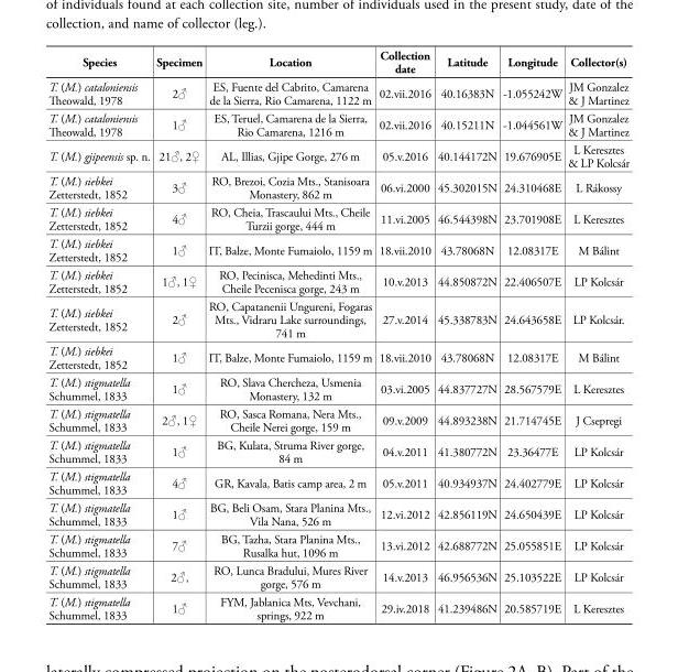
<table><thead><tr><td>Species</td><td>Specimen</td><td>Location</td><td>Collection date</td><td>Latitude</td><td>Longitude</td><td>Collector(s)</td></tr></thead><tbody><tr><td>T. (M.) cataloniensis Theowald, 1978</td><td>2♂</td><td>ES, Fuente del Cabrito, Camarena de la Sierra, Rio Camarena, 1122 m</td><td>02.vii.2016</td><td colspan="2">40.16383N -1.055242W</td><td>JM Gonzalez &amp; J Martinez</td></tr><tr><td>T. (M.) cataloniensis Theowald, 1978</td><td>1♂</td><td>ES, Teruel, Camarena de la Sierra, Rio Camarena, 1216 m</td><td>02.vii.2016</td><td colspan="2">40.15211N -1.044561W</td><td>JM Gonzalez &amp; J Martinez</td></tr><tr><td>T. (M.) gjipeensis sp. n.</td><td>21♂, 2♀</td><td>AL, Illias, Gjipe Gorge, 276 m</td><td>05.v.2016</td><td colspan="2">40.144172N 19.676905E</td><td>L Keresztes &amp; LP Kolcsár</td></tr><tr><td>T. (M.) siebkei Zetterstedt, 1852</td><td>3♂</td><td>RO, Brezoi, Cozia Mts., Stanisoara Monastery, 862 m</td><td>06.vi.2000</td><td colspan="2">45.302015N 24.310468E</td><td>L Rákossy</td></tr><tr><td>T. (M.) siebkei Zetterstedt, 1852</td><td>4♂</td><td>RO, Cheia, Trascaului Mts., Cheile Turzii gorge, 444 m</td><td>11.vi.2005</td><td colspan="2">46.544398N 23.701908E</td><td>L Keresztes</td></tr><tr><td>T. (M.) siebkei Zetterstedt, 1852</td><td>1♂</td><td>IT, Balze, Monte Fumaiolo, 1159 m</td><td>18.vii.2010</td><td colspan="2">43.78068N 12.08317E</td><td>M Bálint</td></tr><tr><td>T. (M.) siebkei Zetterstedt, 1852</td><td>1♂, 1♀</td><td>RO, Pecinisca, Mehedinti Mts., Cheile Pecenisca gorge, 243 m</td><td>10.v.2013</td><td colspan="2">44.850872N 22.406507E</td><td>LP Kolcsár</td></tr><tr><td>T. (M.) siebkei Zetterstedt, 1852</td><td>2♂</td><td>RO, Capatanenii Ungureni, Fogaras Mts., Vidraru Lake surroundings, 741 m</td><td>27.v.2014</td><td colspan="2">45.338783N 24.643658E</td><td>LP Kolcsár.</td></tr><tr><td>T. (M.) siebkei Zetterstedt, 1852</td><td>1♂</td><td>IT, Balze, Monte Fumaiolo, 1159 m</td><td>18.vii.2010</td><td colspan="2">43.78068N 12.08317E</td><td>M Bálint</td></tr><tr><td>T. (M.) stigmatella Schummel, 1833</td><td>1♂</td><td>RO, Slava Chercheza, Usmenia Monastery, 132 m</td><td>03.vi.2005</td><td colspan="2">44.837727N 28.567579E</td><td>L Keresztes</td></tr><tr><td>T. (M.) stigmatella Schummel, 1833</td><td>2♂, 1♀</td><td>RO, Sasca Romana, Nera Mts., Cheile Nerei gorge, 159 m</td><td>09.v.2009</td><td colspan="2">44.893238N 21.714745E</td><td>J Csepregi</td></tr><tr><td>T. (M.) stigmatella Schummel, 1833</td><td>1♂</td><td>BG, Kulata, Struma River gorge, 84 m</td><td>04.v.2011</td><td colspan="2">41.380772N 23.36477E</td><td>LP Kolcsár</td></tr><tr><td>T. (M.) stigmatella Schummel, 1833</td><td>4♂</td><td>GR, Kavala, Batis camp area, 2 m</td><td>05.v.2011</td><td colspan="2">40.934937N 24.402779E</td><td>LP Kolcsár</td></tr><tr><td>T. (M.) stigmatella Schummel, 1833</td><td>1♂</td><td>BG, Beli Osam, Stara Planina Mts., Vila Nana, 526 m</td><td>12.vi.2012</td><td colspan="2">42.856119N 24.650439E</td><td>LP Kolcsár</td></tr><tr><td>T. (M.) stigmatella Schummel, 1833</td><td>7♂</td><td>BG, Tazha, Stara Planina Mts., Rusalka hut, 1096 m</td><td>13.vi.2012</td><td colspan="2">42.688772N 25.055851E</td><td>LP Kolcsár</td></tr><tr><td>T. (M.) stigmatella Schummel, 1833</td><td>2♂,</td><td>RO, Lunca Bradului, Mures River gorge, 576 m</td><td>14.v.2013</td><td colspan="2">46.956536N 25.103522E</td><td>LP Kolcsár</td></tr><tr><td>T. (M.) stigmatella Schummel, 1833</td><td>1♂</td><td>FYM, Jablanica Mts, Vevchani, springs, 922 m</td><td>29.iv.2018</td><td colspan="2">41.239486N 20.585719E</td><td>L Keresztes</td></tr></tbody></table>